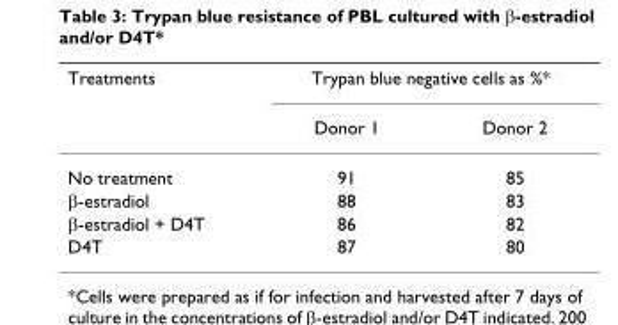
<table><thead><tr><td rowspan="2">Treatments</td><td colspan="2">Trypan blue negative cells as %*</td></tr><tr><td>Donor 1</td><td>Donor 2</td></tr></thead><tbody><tr><td>No treatment</td><td>91</td><td>85</td></tr><tr><td>β-estradiol</td><td>88</td><td>83</td></tr><tr><td>β-estradiol + D4T</td><td>86</td><td>82</td></tr><tr><td>D4T</td><td>87</td><td>80</td></tr></tbody></table>